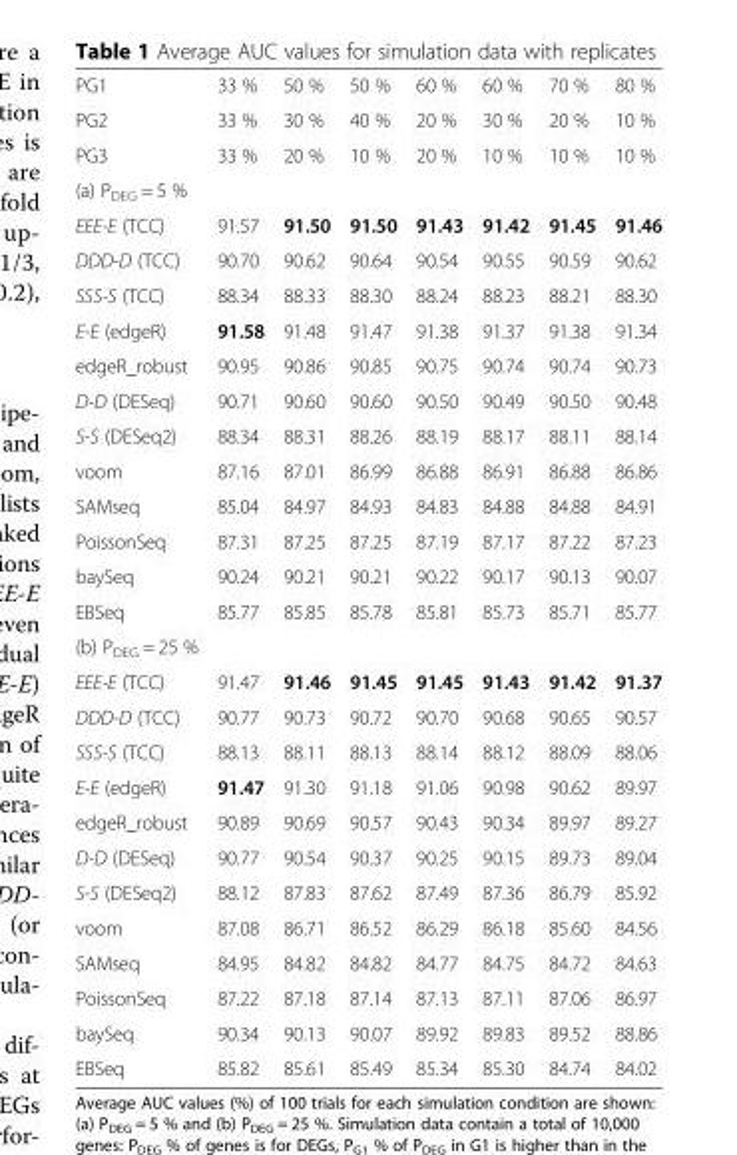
<table><tbody><tr><td>PG1</td><td>33 %</td><td>50 %</td><td>50 %</td><td>60 %</td><td>60 %</td><td>70 %</td><td>80 %</td></tr><tr><td>PG2</td><td>33 %</td><td>30 %</td><td>40 %</td><td>20 %</td><td>30 %</td><td>20 %</td><td>10 %</td></tr><tr><td>PG3</td><td>33 %</td><td>20 %</td><td>10 %</td><td>20 %</td><td>10 %</td><td>10 %</td><td>10 %</td></tr><tr><td colspan="8">(a) P<sub>DEG</sub> = 5 %</td></tr><tr><td>EEE-E (TCC)</td><td>91.57</td><td>91.50</td><td>91.50</td><td>91.43</td><td>91.42</td><td>91.45</td><td>91.46</td></tr><tr><td>DDD-D (TCC)</td><td>90.70</td><td>90.62</td><td>90.64</td><td>90.54</td><td>90.55</td><td>90.59</td><td>90.62</td></tr><tr><td>SSS-S (TCC)</td><td>88.34</td><td>88.33</td><td>88.30</td><td>88.24</td><td>88.23</td><td>88.21</td><td>88.30</td></tr><tr><td>E-E (edgeR)</td><td>91.58</td><td>91.48</td><td>91.47</td><td>91.38</td><td>91.37</td><td>91.38</td><td>91.34</td></tr><tr><td>edgeR_robust</td><td>90.95</td><td>90.86</td><td>90.85</td><td>90.75</td><td>90.74</td><td>90.74</td><td>90.73</td></tr><tr><td>D-D (DESeq)</td><td>90.71</td><td>90.60</td><td>90.60</td><td>90.50</td><td>90.49</td><td>90.50</td><td>90.48</td></tr><tr><td>S-S (DESeq2)</td><td>88.34</td><td>88.31</td><td>88.26</td><td>88.19</td><td>88.17</td><td>88.11</td><td>88.14</td></tr><tr><td>voom</td><td>87.16</td><td>87.01</td><td>86.99</td><td>86.88</td><td>86.91</td><td>86.88</td><td>86.86</td></tr><tr><td>SAMseq</td><td>85.04</td><td>84.97</td><td>84.93</td><td>84.83</td><td>84.88</td><td>84.88</td><td>84.91</td></tr><tr><td>PoissonSeq</td><td>87.31</td><td>87.25</td><td>87.25</td><td>87.19</td><td>87.17</td><td>87.22</td><td>87.23</td></tr><tr><td>baySeq</td><td>90.24</td><td>90.21</td><td>90.21</td><td>90.22</td><td>90.17</td><td>90.13</td><td>90.07</td></tr><tr><td>EBSeq</td><td>85.77</td><td>85.85</td><td>85.78</td><td>85.81</td><td>85.73</td><td>85.71</td><td>85.77</td></tr><tr><td colspan="8">(b) P<sub>DEG</sub> = 25 %</td></tr><tr><td>EEE-E (TCC)</td><td>91.47</td><td>91.46</td><td>91.45</td><td>91.45</td><td>91.43</td><td>91.42</td><td>91.37</td></tr><tr><td>DDD-D (TCC)</td><td>90.77</td><td>90.73</td><td>90.72</td><td>90.70</td><td>90.68</td><td>90.65</td><td>90.57</td></tr><tr><td>SSS-S (TCC)</td><td>88.13</td><td>88.11</td><td>88.13</td><td>88.14</td><td>88.12</td><td>88.09</td><td>88.06</td></tr><tr><td>E-E (edgeR)</td><td>91.47</td><td>91.30</td><td>91.18</td><td>91.06</td><td>90.98</td><td>90.62</td><td>89.97</td></tr><tr><td>edgeR_robust</td><td>90.89</td><td>90.69</td><td>90.57</td><td>90.43</td><td>90.34</td><td>89.97</td><td>89.27</td></tr><tr><td>D-D (DESeq)</td><td>90.77</td><td>90.54</td><td>90.37</td><td>90.25</td><td>90.15</td><td>89.73</td><td>89.04</td></tr><tr><td>S-S (DESeq2)</td><td>88.12</td><td>87.83</td><td>87.62</td><td>87.49</td><td>87.36</td><td>86.79</td><td>85.92</td></tr><tr><td>voom</td><td>87.08</td><td>86.71</td><td>86.52</td><td>86.29</td><td>86.18</td><td>85.60</td><td>84.56</td></tr><tr><td>SAMseq</td><td>84.95</td><td>84.82</td><td>84.82</td><td>84.77</td><td>84.75</td><td>84.72</td><td>84.63</td></tr><tr><td>PoissonSeq</td><td>87.22</td><td>87.18</td><td>87.14</td><td>87.13</td><td>87.11</td><td>87.06</td><td>86.97</td></tr><tr><td>baySeq</td><td>90.34</td><td>90.13</td><td>90.07</td><td>89.92</td><td>89.83</td><td>89.52</td><td>88.86</td></tr><tr><td>EBSeq</td><td>85.82</td><td>85.61</td><td>85.49</td><td>85.34</td><td>85.30</td><td>84.74</td><td>84.02</td></tr></tbody></table>